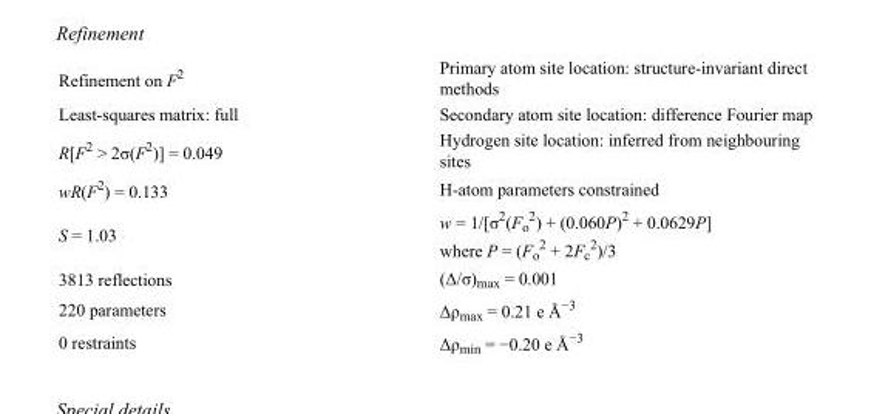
<table><tbody><tr><td>Refinement on F<sup>2</sup></td><td>Primary atom site location: structure-invariant direct methods</td></tr><tr><td>Least-squares matrix: full</td><td>Secondary atom site location: difference Fourier map</td></tr><tr><td>R[F<sup>2</sup> &gt; 2σ(F<sup>2</sup>)] = 0.049</td><td>Hydrogen site location: inferred from neighbouring sites</td></tr><tr><td>wR(F<sup>2</sup>) = 0.133</td><td>H-atom parameters constrained</td></tr><tr><td>S = 1.03</td><td>w = 1/[σ<sup>2</sup>(F<sub>o</sub> <sup>2</sup>) + (0.060P)<sup>2</sup> + 0.0629P] where P = (F<sub>o</sub> <sup>2</sup> + 2F<sub>c</sub> <sup>2</sup>)/3</td></tr><tr><td>3813 reflections</td><td>(Δ/σ)<sub>max</sub> = 0.001</td></tr><tr><td>220 parameters</td><td>Δρ<sub>max</sub> = 0.21 e Å<sup>−3</sup></td></tr><tr><td>0 restraints</td><td>Δρ<sub>min</sub> = −0.20 e Å<sup>−3</sup></td></tr></tbody></table>